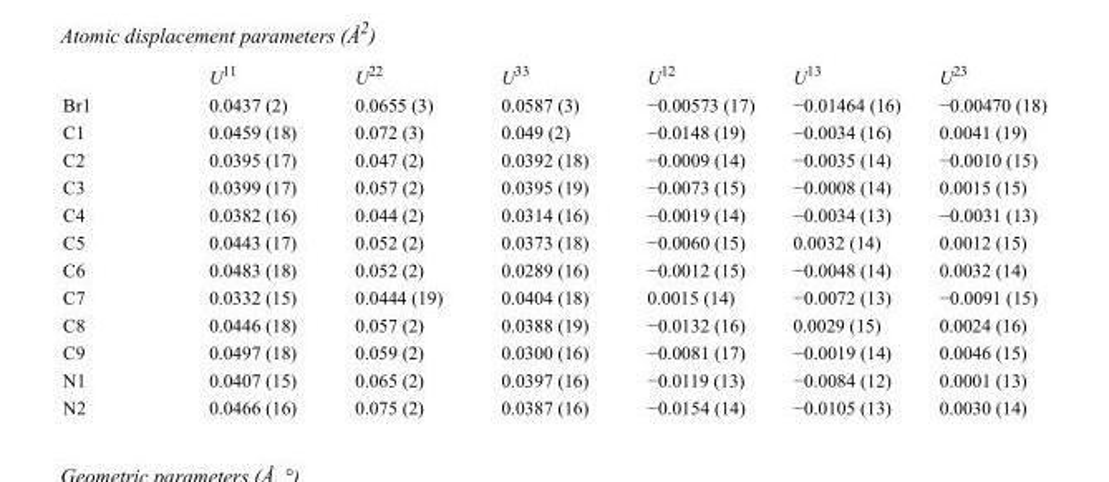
<table><thead><tr><td></td><td>U<sup>11</sup></td><td>U<sup>22</sup></td><td>U<sup>33</sup></td><td>U<sup>12</sup></td><td>U<sup>13</sup></td><td>U<sup>23</sup></td></tr></thead><tbody><tr><td>Br1</td><td>0.0437 (2)</td><td>0.0655 (3)</td><td>0.0587 (3)</td><td>−0.00573 (17)</td><td>−0.01464 (16)</td><td>−0.00470 (18)</td></tr><tr><td>C1</td><td>0.0459 (18)</td><td>0.072 (3)</td><td>0.049 (2)</td><td>−0.0148 (19)</td><td>−0.0034 (16)</td><td>0.0041 (19)</td></tr><tr><td>C2</td><td>0.0395 (17)</td><td>0.047 (2)</td><td>0.0392 (18)</td><td>−0.0009 (14)</td><td>−0.0035 (14)</td><td>−0.0010 (15)</td></tr><tr><td>C3</td><td>0.0399 (17)</td><td>0.057 (2)</td><td>0.0395 (19)</td><td>−0.0073 (15)</td><td>−0.0008 (14)</td><td>0.0015 (15)</td></tr><tr><td>C4</td><td>0.0382 (16)</td><td>0.044 (2)</td><td>0.0314 (16)</td><td>−0.0019 (14)</td><td>−0.0034 (13)</td><td>−0.0031 (13)</td></tr><tr><td>C5</td><td>0.0443 (17)</td><td>0.052 (2)</td><td>0.0373 (18)</td><td>−0.0060 (15)</td><td>0.0032 (14)</td><td>0.0012 (15)</td></tr><tr><td>C6</td><td>0.0483 (18)</td><td>0.052 (2)</td><td>0.0289 (16)</td><td>−0.0012 (15)</td><td>−0.0048 (14)</td><td>0.0032 (14)</td></tr><tr><td>C7</td><td>0.0332 (15)</td><td>0.0444 (19)</td><td>0.0404 (18)</td><td>0.0015 (14)</td><td>−0.0072 (13)</td><td>−0.0091 (15)</td></tr><tr><td>C8</td><td>0.0446 (18)</td><td>0.057 (2)</td><td>0.0388 (19)</td><td>−0.0132 (16)</td><td>0.0029 (15)</td><td>0.0024 (16)</td></tr><tr><td>C9</td><td>0.0497 (18)</td><td>0.059 (2)</td><td>0.0300 (16)</td><td>−0.0081 (17)</td><td>−0.0019 (14)</td><td>0.0046 (15)</td></tr><tr><td>N1</td><td>0.0407 (15)</td><td>0.065 (2)</td><td>0.0397 (16)</td><td>−0.0119 (13)</td><td>−0.0084 (12)</td><td>0.0001 (13)</td></tr><tr><td>N2</td><td>0.0466 (16)</td><td>0.075 (2)</td><td>0.0387 (16)</td><td>−0.0154 (14)</td><td>−0.0105 (13)</td><td>0.0030 (14)</td></tr></tbody></table>